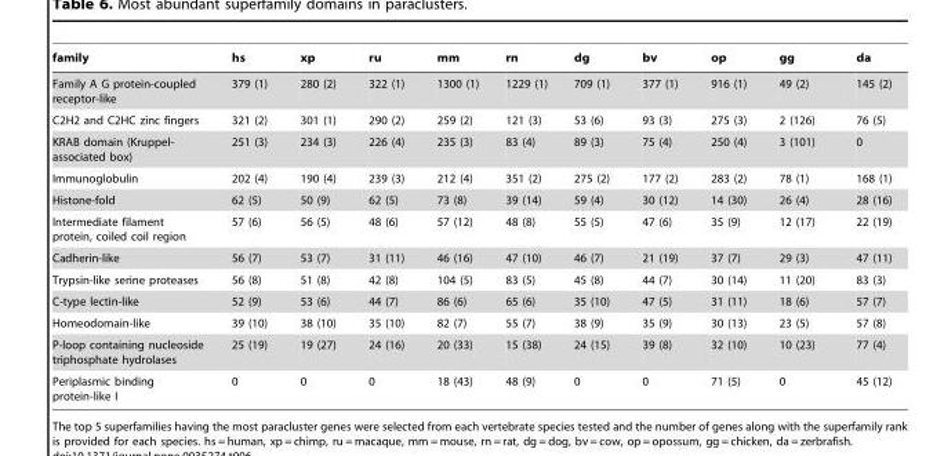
<table><thead><tr><td>family</td><td>hs</td><td>xp</td><td>ru</td><td>mm</td><td>rn</td><td>dg</td><td>bv</td><td>op</td><td>gg</td><td>da</td></tr></thead><tbody><tr><td>Family A G protein-coupled receptor-like</td><td>379 (1)</td><td>280 (2)</td><td>322 (1)</td><td>1300 (1)</td><td>1229 (1)</td><td>709 (1)</td><td>377 (1)</td><td>916 (1)</td><td>49 (2)</td><td>145 (2)</td></tr><tr><td>C2H2 and C2HC zinc fingers</td><td>321 (2)</td><td>301 (1)</td><td>290 (2)</td><td>259 (2)</td><td>121 (3)</td><td>53 (6)</td><td>93 (3)</td><td>275 (3)</td><td>2 (126)</td><td>76 (5)</td></tr><tr><td>KRAB domain (Kruppel- associated box)</td><td>251 (3)</td><td>234 (3)</td><td>226 (4)</td><td>235 (3)</td><td>83 (4)</td><td>89 (3)</td><td>75 (4)</td><td>250 (4)</td><td>3 (101)</td><td>0</td></tr><tr><td>Immunoglobulin</td><td>202 (4)</td><td>190 (4)</td><td>239 (3)</td><td>212 (4)</td><td>351 (2)</td><td>275 (2)</td><td>177 (2)</td><td>283 (2)</td><td>78 (1)</td><td>168 (1)</td></tr><tr><td>Histone-fold</td><td>62 (5)</td><td>50 (9)</td><td>62 (5)</td><td>73 (8)</td><td>39 (14)</td><td>59 (4)</td><td>30 (12)</td><td>14 (30)</td><td>26 (4)</td><td>28 (16)</td></tr><tr><td>Intermediate filament protein, coiled coil region</td><td>57 (6)</td><td>56 (5)</td><td>48 (6)</td><td>57 (12)</td><td>48 (8)</td><td>55 (5)</td><td>47 (6)</td><td>35 (9)</td><td>12 (17)</td><td>22 (19)</td></tr><tr><td>Cadherin-like</td><td>56 (7)</td><td>53 (7)</td><td>31 (11)</td><td>46 (16)</td><td>47 (10)</td><td>46 (7)</td><td>21 (19)</td><td>37 (7)</td><td>29 (3)</td><td>47 (11)</td></tr><tr><td>Trypsin-like serine proteases</td><td>56 (8)</td><td>51 (8)</td><td>42 (8)</td><td>104 (5)</td><td>83 (5)</td><td>45 (8)</td><td>44 (7)</td><td>30 (14)</td><td>11 (20)</td><td>83 (3)</td></tr><tr><td>C-type lectin-like</td><td>52 (9)</td><td>53 (6)</td><td>44 (7)</td><td>86 (6)</td><td>65 (6)</td><td>35 (10)</td><td>47 (5)</td><td>31 (11)</td><td>18 (6)</td><td>57 (7)</td></tr><tr><td>Homeodomain-like</td><td>39 (10)</td><td>38 (10)</td><td>35 (10)</td><td>82 (7)</td><td>55 (7)</td><td>38 (9)</td><td>35 (9)</td><td>30 (13)</td><td>23 (5)</td><td>57 (8)</td></tr><tr><td>P-loop containing nucleoside triphosphate hydrolases</td><td>25 (19)</td><td>19 (27)</td><td>24 (16)</td><td>20 (33)</td><td>15 (38)</td><td>24 (15)</td><td>39 (8)</td><td>32 (10)</td><td>10 (23)</td><td>77 (4)</td></tr><tr><td>Periplasmic binding protein-like I</td><td>0</td><td>0</td><td>0</td><td>18 (43)</td><td>48 (9)</td><td>0</td><td>0</td><td>71 (5)</td><td>0</td><td>45 (12)</td></tr></tbody></table>